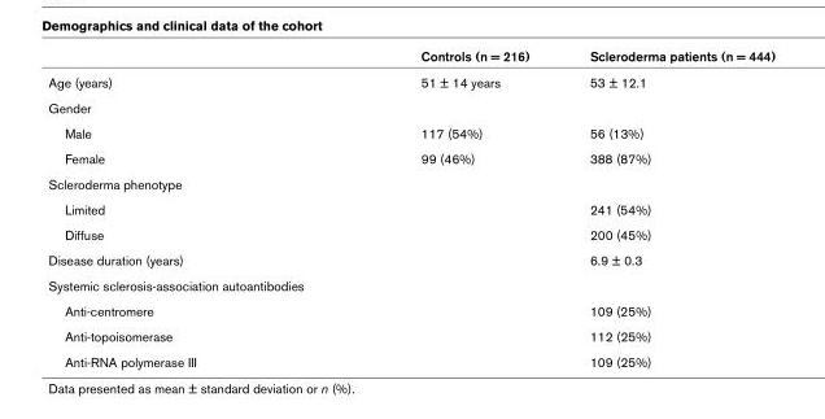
<table><thead><tr><td></td><td>Controls (n = 216)</td><td>Scleroderma patients (n = 444)</td></tr></thead><tbody><tr><td>Age (years)</td><td>51 ± 14 years</td><td>53 ± 12.1</td></tr><tr><td colspan="3">Gender</td></tr><tr><td>Male</td><td>117 (54%)</td><td>56 (13%)</td></tr><tr><td>Female</td><td>99 (46%)</td><td>388 (87%)</td></tr><tr><td colspan="3">Scleroderma phenotype</td></tr><tr><td>Limited</td><td></td><td>241 (54%)</td></tr><tr><td>Diffuse</td><td></td><td>200 (45%)</td></tr><tr><td>Disease duration (years)</td><td></td><td>6.9 ± 0.3</td></tr><tr><td colspan="3">Systemic sclerosis-association autoantibodies</td></tr><tr><td>Anti-centromere</td><td></td><td>109 (25%)</td></tr><tr><td>Anti-topoisomerase</td><td></td><td>112 (25%)</td></tr><tr><td>Anti-RNA polymerase III</td><td></td><td>109 (25%)</td></tr></tbody></table>